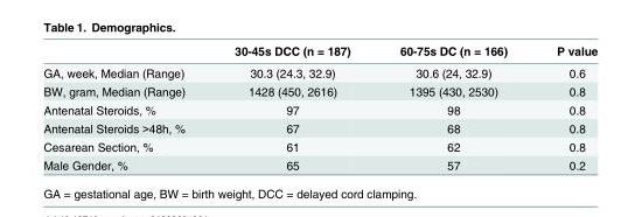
<table><thead><tr><td></td><td>30-45s DCC (n = 187)</td><td>60-75s DC (n = 166)</td><td>P value</td></tr></thead><tbody><tr><td>GA, week, Median (Range)</td><td>30.3 (24.3, 32.9)</td><td>30.6 (24, 32.9)</td><td>0.6</td></tr><tr><td>BW, gram, Median (Range)</td><td>1428 (450, 2616)</td><td>1395 (430, 2530)</td><td>0.8</td></tr><tr><td>Antenatal Steroids, %</td><td>97</td><td>98</td><td>0.8</td></tr><tr><td>Antenatal Steroids &gt;48h, %</td><td>67</td><td>68</td><td>0.8</td></tr><tr><td>Cesarean Section, %</td><td>61</td><td>62</td><td>0.8</td></tr><tr><td>Male Gender, %</td><td>65</td><td>57</td><td>0.2</td></tr></tbody></table>